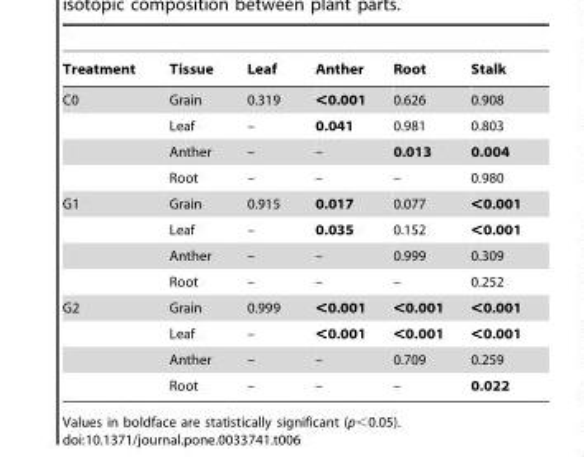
<table><thead><tr><td>Treatment</td><td>Tissue</td><td>Leaf</td><td>Anther</td><td>Root</td><td>Stalk</td></tr></thead><tbody><tr><td rowspan="4">C0</td><td>Grain</td><td>0.319</td><td>&lt;0.001</td><td>0.626</td><td>0.908</td></tr><tr><td>Leaf</td><td>–</td><td>0.041</td><td>0.981</td><td>0.803</td></tr><tr><td>Anther</td><td>–</td><td>–</td><td>0.013</td><td>0.004</td></tr><tr><td>Root</td><td>–</td><td>–</td><td>–</td><td>0.980</td></tr><tr><td rowspan="4">G1</td><td>Grain</td><td>0.915</td><td>0.017</td><td>0.077</td><td>&lt;0.001</td></tr><tr><td>Leaf</td><td>–</td><td>0.035</td><td>0.152</td><td>&lt;0.001</td></tr><tr><td>Anther</td><td>–</td><td>–</td><td>0.999</td><td>0.309</td></tr><tr><td>Root</td><td>–</td><td>–</td><td>–</td><td>0.252</td></tr><tr><td rowspan="4">G2</td><td>Grain</td><td>0.999</td><td>&lt;0.001</td><td>&lt;0.001</td><td>&lt;0.001</td></tr><tr><td>Leaf</td><td>–</td><td>&lt;0.001</td><td>&lt;0.001</td><td>&lt;0.001</td></tr><tr><td>Anther</td><td>–</td><td>–</td><td>0.709</td><td>0.259</td></tr><tr><td>Root</td><td>–</td><td>–</td><td>–</td><td>0.022</td></tr></tbody></table>